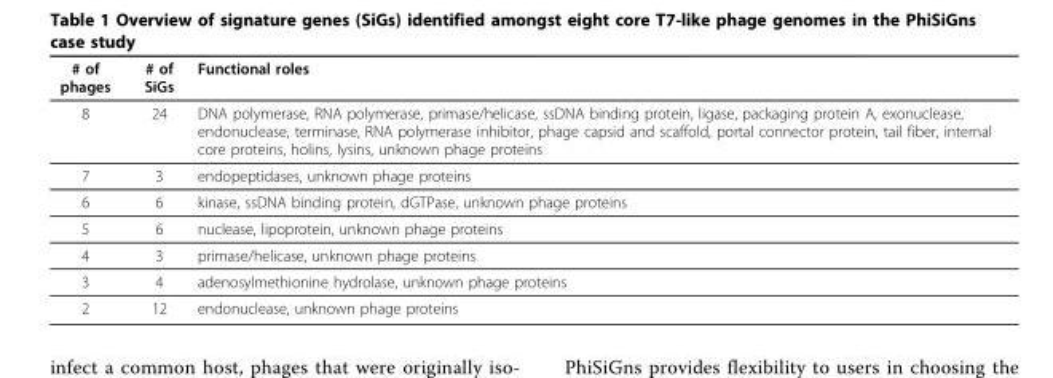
<table><thead><tr><td># of phages</td><td># of SiGs</td><td>Functional roles</td></tr></thead><tbody><tr><td>8</td><td>24</td><td>DNA polymerase, RNA polymerase, primase/helicase, ssDNA binding protein, ligase, packaging protein A, exonuclease, endonuclease, terminase, RNA polymerase inhibitor, phage capsid and scaffold, portal connector protein, tail fiber, internal core proteins, holins, lysins, unknown phage proteins</td></tr><tr><td>7</td><td>3</td><td>endopeptidases, unknown phage proteins</td></tr><tr><td>6</td><td>6</td><td>kinase, ssDNA binding protein, dGTPase, unknown phage proteins</td></tr><tr><td>5</td><td>6</td><td>nuclease, lipoprotein, unknown phage proteins</td></tr><tr><td>4</td><td>3</td><td>primase/helicase, unknown phage proteins</td></tr><tr><td>3</td><td>4</td><td>adenosylmethionine hydrolase, unknown phage proteins</td></tr><tr><td>2</td><td>12</td><td>endonuclease, unknown phage proteins</td></tr></tbody></table>